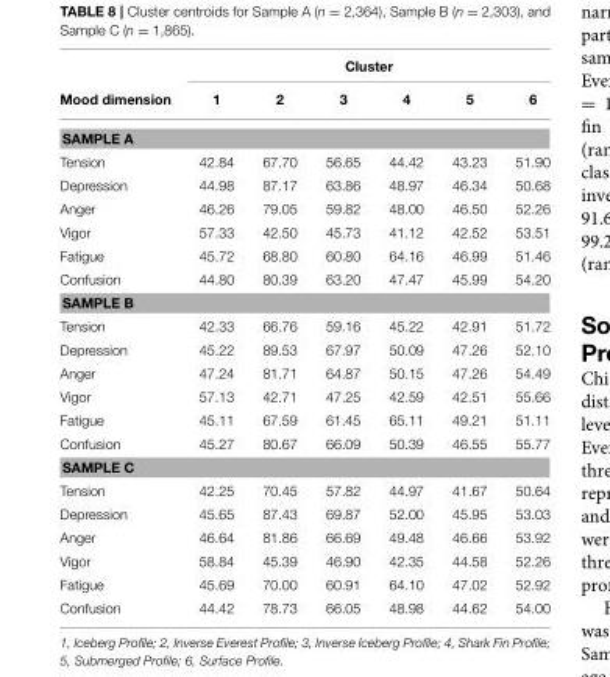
<table><thead><tr><td rowspan="2">Mood dimension</td><td colspan="6">Cluster</td></tr><tr><td>1</td><td>2</td><td>3</td><td>4</td><td>5</td><td>6</td></tr></thead><tbody><tr><td colspan="7">SAMPLE A</td></tr><tr><td>Tension</td><td>42.84</td><td>67.70</td><td>56.65</td><td>44.42</td><td>43.23</td><td>51.90</td></tr><tr><td>Depression</td><td>44.98</td><td>87.17</td><td>63.86</td><td>48.97</td><td>46.34</td><td>50.68</td></tr><tr><td>Anger</td><td>46.26</td><td>79.05</td><td>59.82</td><td>48.00</td><td>46.50</td><td>52.26</td></tr><tr><td>Vigor</td><td>57.33</td><td>42.50</td><td>45.73</td><td>41.12</td><td>42.52</td><td>53.51</td></tr><tr><td>Fatigue</td><td>45.72</td><td>68.80</td><td>60.80</td><td>64.16</td><td>46.99</td><td>51.46</td></tr><tr><td>Confusion</td><td>44.80</td><td>80.39</td><td>63.20</td><td>47.47</td><td>45.99</td><td>54.20</td></tr><tr><td colspan="7">SAMPLE B</td></tr><tr><td>Tension</td><td>42.33</td><td>66.76</td><td>59.16</td><td>45.22</td><td>42.91</td><td>51.72</td></tr><tr><td>Depression</td><td>45.22</td><td>89.53</td><td>67.97</td><td>50.09</td><td>47.26</td><td>52.10</td></tr><tr><td>Anger</td><td>47.24</td><td>81.71</td><td>64.87</td><td>50.15</td><td>47.26</td><td>54.49</td></tr><tr><td>Vigor</td><td>57.13</td><td>42.71</td><td>47.25</td><td>42.59</td><td>42.51</td><td>55.66</td></tr><tr><td>Fatigue</td><td>45.11</td><td>67.59</td><td>61.45</td><td>65.11</td><td>49.21</td><td>51.11</td></tr><tr><td>Confusion</td><td>45.27</td><td>80.67</td><td>66.09</td><td>50.39</td><td>46.55</td><td>55.77</td></tr><tr><td colspan="7">SAMPLE C</td></tr><tr><td>Tension</td><td>42.25</td><td>70.45</td><td>57.82</td><td>44.97</td><td>41.67</td><td>50.64</td></tr><tr><td>Depression</td><td>45.65</td><td>87.43</td><td>69.87</td><td>52.00</td><td>45.95</td><td>53.03</td></tr><tr><td>Anger</td><td>46.64</td><td>81.86</td><td>66.69</td><td>49.48</td><td>46.66</td><td>53.92</td></tr><tr><td>Vigor</td><td>58.84</td><td>45.39</td><td>46.90</td><td>42.35</td><td>44.58</td><td>52.26</td></tr><tr><td>Fatigue</td><td>45.69</td><td>70.00</td><td>60.91</td><td>64.10</td><td>47.02</td><td>52.92</td></tr><tr><td>Confusion</td><td>44.42</td><td>78.73</td><td>66.05</td><td>48.98</td><td>44.62</td><td>54.00</td></tr></tbody></table>